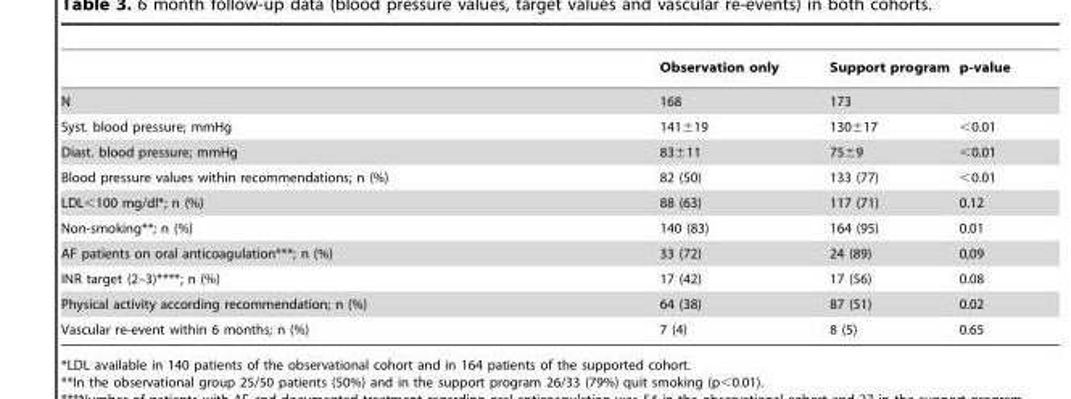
<table><thead><tr><td></td><td>Observation only</td><td>Support program</td><td>p-value</td></tr></thead><tbody><tr><td>N</td><td>168</td><td>173</td><td></td></tr><tr><td>Syst. blood pressure; mmHg</td><td>141±19</td><td>130±17</td><td>&lt;0.01</td></tr><tr><td>Diast. blood pressure; mmHg</td><td>83±11</td><td>75±9</td><td>&lt;0.01</td></tr><tr><td>Blood pressure values within recommendations; n (%)</td><td>82 (50)</td><td>133 (77)</td><td>&lt;0.01</td></tr><tr><td>LDL&lt;100 mg/dl*; n (%)</td><td>88 (63)</td><td>117 (71)</td><td>0.12</td></tr><tr><td>Non-smoking**; n (%)</td><td>140 (83)</td><td>164 (95)</td><td>0.01</td></tr><tr><td>AF patients on oral anticoagulation***; n (%)</td><td>33 (72)</td><td>24 (89)</td><td>0,09</td></tr><tr><td>INR target (2–3)****; n (%)</td><td>17 (42)</td><td>17 (56)</td><td>0.08</td></tr><tr><td>Physical activity according recommendation; n (%)</td><td>64 (38)</td><td>87 (51)</td><td>0.02</td></tr><tr><td>Vascular re-event within 6 months; n (%)</td><td>7 (4)</td><td>8 (5)</td><td>0.65</td></tr></tbody></table>